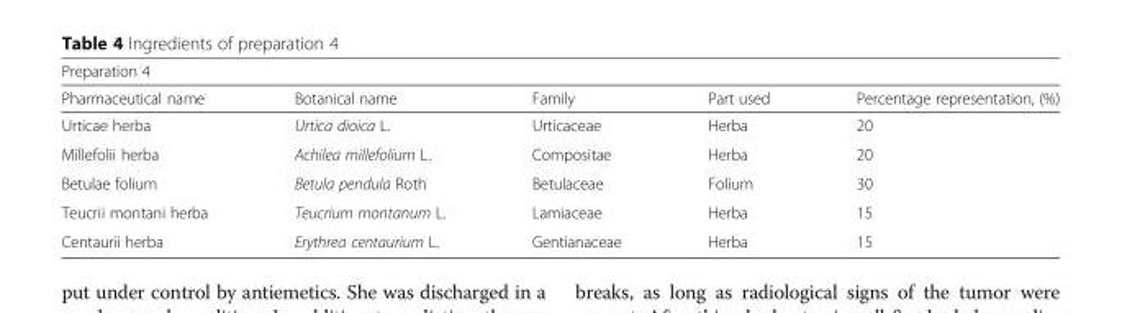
<table><thead><tr><td colspan="5">Preparation 4</td></tr><tr><td>Pharmaceutical name</td><td>Botanical name</td><td>Family</td><td>Part used</td><td>Percentage representation, (%)</td></tr></thead><tbody><tr><td>Urticae herba</td><td>Urtica dioica L.</td><td>Urticaceae</td><td>Herba</td><td>20</td></tr><tr><td>Millefolii herba</td><td>Achilea millefolium L.</td><td>Compositae</td><td>Herba</td><td>20</td></tr><tr><td>Betulae folium</td><td>Betula pendula Roth</td><td>Betulaceae</td><td>Folium</td><td>30</td></tr><tr><td>Teucrii montani herba</td><td>Teucrium montanum L.</td><td>Lamiaceae</td><td>Herba</td><td>15</td></tr><tr><td>Centaurii herba</td><td>Erythrea centaurium L.</td><td>Gentianaceae</td><td>Herba</td><td>15</td></tr></tbody></table>